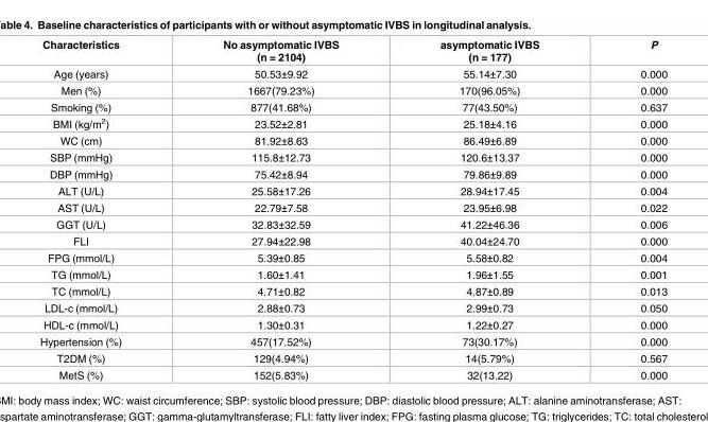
<table><thead><tr><td>Characteristics</td><td>No asymptomatic IVBS (n = 2104)</td><td>asymptomatic IVBS (n = 177)</td><td>P</td></tr></thead><tbody><tr><td>Age (years)</td><td>50.53±9.92</td><td>55.14±7.30</td><td>0.000</td></tr><tr><td>Men (%)</td><td>1667(79.23%)</td><td>170(96.05%)</td><td>0.000</td></tr><tr><td>Smoking (%)</td><td>877(41.68%)</td><td>77(43.50%)</td><td>0.637</td></tr><tr><td>BMI (kg/m<sup>2</sup>)</td><td>23.52±2.81</td><td>25.18±4.16</td><td>0.000</td></tr><tr><td>WC (cm)</td><td>81.92±8.63</td><td>86.49±6.89</td><td>0.000</td></tr><tr><td>SBP (mmHg)</td><td>115.8±12.73</td><td>120.6±13.37</td><td>0.000</td></tr><tr><td>DBP (mmHg)</td><td>75.42±8.94</td><td>79.86±9.89</td><td>0.000</td></tr><tr><td>ALT (U/L)</td><td>25.58±17.26</td><td>28.94±17.45</td><td>0.004</td></tr><tr><td>AST (U/L)</td><td>22.79±7.58</td><td>23.95±6.98</td><td>0.022</td></tr><tr><td>GGT (U/L)</td><td>32.83±32.59</td><td>41.22±46.36</td><td>0.006</td></tr><tr><td>FLI</td><td>27.94±22.98</td><td>40.04±24.70</td><td>0.000</td></tr><tr><td>FPG (mmol/L)</td><td>5.39±0.85</td><td>5.58±0.82</td><td>0.004</td></tr><tr><td>TG (mmol/L)</td><td>1.60±1.41</td><td>1.96±1.55</td><td>0.001</td></tr><tr><td>TC (mmol/L)</td><td>4.71±0.82</td><td>4.87±0.89</td><td>0.013</td></tr><tr><td>LDL-c (mmol/L)</td><td>2.88±0.73</td><td>2.99±0.73</td><td>0.050</td></tr><tr><td>HDL-c (mmol/L)</td><td>1.30±0.31</td><td>1.22±0.27</td><td>0.000</td></tr><tr><td>Hypertension (%)</td><td>457(17.52%)</td><td>73(30.17%)</td><td>0.000</td></tr><tr><td>T2DM (%)</td><td>129(4.94%)</td><td>14(5.79%)</td><td>0.567</td></tr><tr><td>MetS (%)</td><td>152(5.83%)</td><td>32(13.22)</td><td>0.000</td></tr></tbody></table>